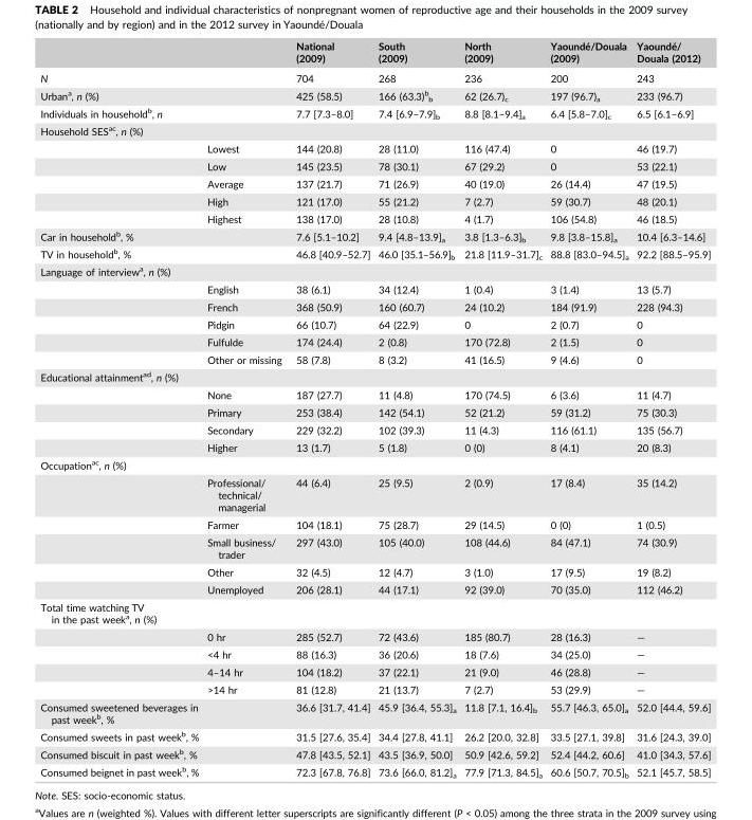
<table><thead><tr><td></td><td></td><td>National (2009)</td><td>South (2009)</td><td>North (2009)</td><td>Yaoundé/Douala (2009)</td><td>Yaoundé/ Douala (2012)</td></tr></thead><tbody><tr><td>N</td><td></td><td>704</td><td>268</td><td>236</td><td>200</td><td>243</td></tr><tr><td>Urban<sup>a</sup>, n (%)</td><td></td><td>425 (58.5)</td><td>166 (63.3)<sup>b</sup> <sub>b</sub></td><td>62 (26.7)<sub>c</sub></td><td>197 (96.7)<sub>a</sub></td><td>233 (96.7)</td></tr><tr><td>Individuals in household<sup>b</sup>, n</td><td></td><td>7.7 [7.3–8.0]</td><td>7.4 [6.9–7.9]<sub>b</sub></td><td>8.8 [8.1–9.4]<sub>a</sub></td><td>6.4 [5.8–7.0]<sub>c</sub></td><td>6.5 [6.1–6.9]</td></tr><tr><td colspan="7">Household SESac, n (%)</td></tr><tr><td></td><td>Lowest</td><td>144 (20.8)</td><td>28 (11.0)</td><td>116 (47.4)</td><td>0</td><td>46 (19.7)</td></tr><tr><td></td><td>Low</td><td>145 (23.5)</td><td>78 (30.1)</td><td>67 (29.2)</td><td>0</td><td>53 (22.1)</td></tr><tr><td></td><td>Average</td><td>137 (21.7)</td><td>71 (26.9)</td><td>40 (19.0)</td><td>26 (14.4)</td><td>47 (19.5)</td></tr><tr><td></td><td>High</td><td>121 (17.0)</td><td>55 (21.2)</td><td>7 (2.7)</td><td>59 (30.7)</td><td>48 (20.1)</td></tr><tr><td></td><td>Highest</td><td>138 (17.0)</td><td>28 (10.8)</td><td>4 (1.7)</td><td>106 (54.8)</td><td>46 (18.5)</td></tr><tr><td>Car in household<sup>b</sup>, %</td><td></td><td>7.6 [5.1–10.2]</td><td>9.4 [4.8–13.9]<sub>a</sub></td><td>3.8 [1.3–6.3]<sub>b</sub></td><td>9.8 [3.8–15.8]<sub>a</sub></td><td>10.4 [6.3–14.6]</td></tr><tr><td>TV in household<sup>b</sup>, %</td><td></td><td>46.8 [40.9–52.7]</td><td>46.0 [35.1–56.9]<sub>b</sub></td><td>21.8 [11.9–31.7]<sub>c</sub></td><td>88.8 [83.0–94.5]<sub>a</sub></td><td>92.2 [88.5–95.9]</td></tr><tr><td colspan="7">Language of interview<sup>a</sup>, n (%)</td></tr><tr><td></td><td>English</td><td>38 (6.1)</td><td>34 (12.4)</td><td>1 (0.4)</td><td>3 (1.4)</td><td>13 (5.7)</td></tr><tr><td></td><td>French</td><td>368 (50.9)</td><td>160 (60.7)</td><td>24 (10.2)</td><td>184 (91.9)</td><td>228 (94.3)</td></tr><tr><td></td><td>Pidgin</td><td>66 (10.7)</td><td>64 (22.9)</td><td>0</td><td>2 (0.7)</td><td>0</td></tr><tr><td></td><td>Fulfulde</td><td>174 (24.4)</td><td>2 (0.8)</td><td>170 (72.8)</td><td>2 (1.5)</td><td>0</td></tr><tr><td></td><td>Other or missing</td><td>58 (7.8)</td><td>8 (3.2)</td><td>41 (16.5)</td><td>9 (4.6)</td><td>0</td></tr><tr><td colspan="7">Educational attainmentad, n (%)</td></tr><tr><td></td><td>None</td><td>187 (27.7)</td><td>11 (4.8)</td><td>170 (74.5)</td><td>6 (3.6)</td><td>11 (4.7)</td></tr><tr><td></td><td>Primary</td><td>253 (38.4)</td><td>142 (54.1)</td><td>52 (21.2)</td><td>59 (31.2)</td><td>75 (30.3)</td></tr><tr><td></td><td>Secondary</td><td>229 (32.2)</td><td>102 (39.3)</td><td>11 (4.3)</td><td>116 (61.1)</td><td>135 (56.7)</td></tr><tr><td></td><td>Higher</td><td>13 (1.7)</td><td>5 (1.8)</td><td>0 (0)</td><td>8 (4.1)</td><td>20 (8.3)</td></tr><tr><td colspan="7">Occupationac, n (%)</td></tr><tr><td></td><td>Professional/ technical/ managerial</td><td>44 (6.4)</td><td>25 (9.5)</td><td>2 (0.9)</td><td>17 (8.4)</td><td>35 (14.2)</td></tr><tr><td></td><td>Farmer</td><td>104 (18.1)</td><td>75 (28.7)</td><td>29 (14.5)</td><td>0 (0)</td><td>1 (0.5)</td></tr><tr><td></td><td>Small business/ trader</td><td>297 (43.0)</td><td>105 (40.0)</td><td>108 (44.6)</td><td>84 (47.1)</td><td>74 (30.9)</td></tr><tr><td></td><td>Other</td><td>32 (4.5)</td><td>12 (4.7)</td><td>3 (1.0)</td><td>17 (9.5)</td><td>19 (8.2)</td></tr><tr><td></td><td>Unemployed</td><td>206 (28.1)</td><td>44 (17.1)</td><td>92 (39.0)</td><td>70 (35.0)</td><td>112 (46.2)</td></tr><tr><td colspan="7">Total time watching TV in the past week<sup>a</sup>, n (%)</td></tr><tr><td></td><td>0 hr</td><td>285 (52.7)</td><td>72 (43.6)</td><td>185 (80.7)</td><td>28 (16.3)</td><td>—</td></tr><tr><td></td><td>&lt;4 hr</td><td>88 (16.3)</td><td>36 (20.6)</td><td>18 (7.6)</td><td>34 (25.0)</td><td>—</td></tr><tr><td></td><td>4–14 hr</td><td>104 (18.2)</td><td>37 (22.1)</td><td>21 (9.0)</td><td>46 (28.8)</td><td>—</td></tr><tr><td></td><td>&gt;14 hr</td><td>81 (12.8)</td><td>21 (13.7)</td><td>7 (2.7)</td><td>53 (29.9)</td><td>—</td></tr><tr><td>Consumed sweetened beverages in past week<sup>b</sup>, %</td><td></td><td>36.6 [31.7, 41.4]</td><td>45.9 [36.4, 55.3]<sub>a</sub></td><td>11.8 [7.1, 16.4]<sub>b</sub></td><td>55.7 [46.3, 65.0]<sub>a</sub></td><td>52.0 [44.4, 59.6]</td></tr><tr><td>Consumed sweets in past week<sup>b</sup>, %</td><td></td><td>31.5 [27.6, 35.4]</td><td>34.4 [27.8, 41.1]</td><td>26.2 [20.0, 32.8]</td><td>33.5 [27.1, 39.8]</td><td>31.6 [24.3, 39.0]</td></tr><tr><td>Consumed biscuit in past week<sup>b</sup>, %</td><td></td><td>47.8 [43.5, 52.1]</td><td>43.5 [36.9, 50.0]</td><td>50.9 [42.6, 59.2]</td><td>52.4 [44.2, 60.6]</td><td>41.0 [34.3, 57.6]</td></tr><tr><td>Consumed beignet in past week<sup>b</sup>, %</td><td></td><td>72.3 [67.8, 76.8]</td><td>73.6 [66.0, 81.2]<sub>a</sub></td><td>77.9 [71.3, 84.5]<sub>a</sub></td><td>60.6 [50.7, 70.5]<sub>b</sub></td><td>52.1 [45.7, 58.5]</td></tr></tbody></table>